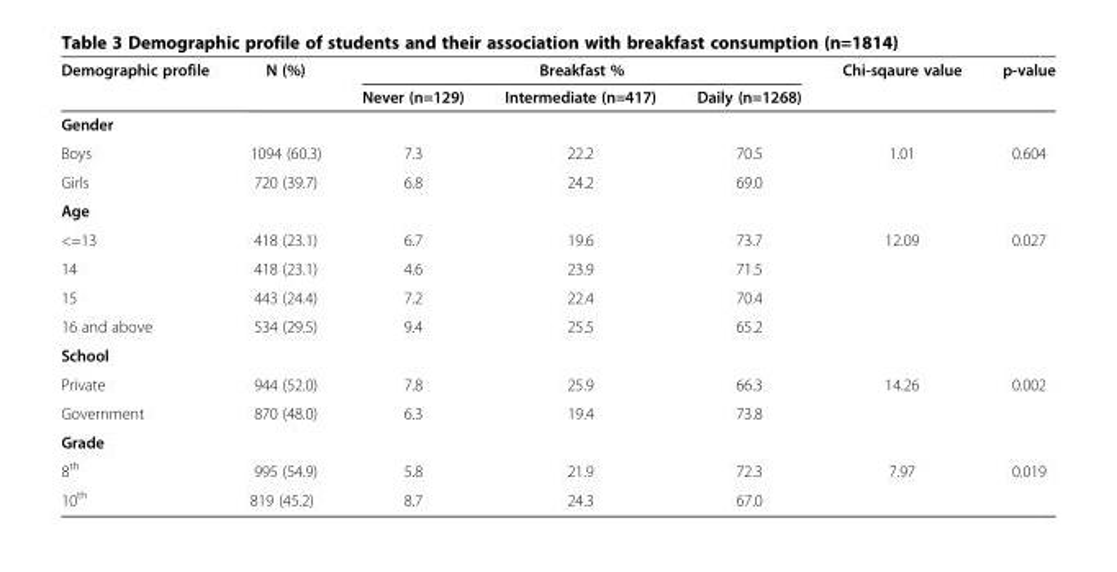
<table><thead><tr><td rowspan="2">Demographic profile</td><td rowspan="2">N (%)</td><td colspan="3">Breakfast %</td><td rowspan="2">Chi-sqaure value</td><td rowspan="2">p-value</td></tr><tr><td>Never (n=129)</td><td>Intermediate (n=417)</td><td>Daily (n=1268)</td></tr></thead><tbody><tr><td colspan="7">Gender</td></tr><tr><td>Boys</td><td>1094 (60.3)</td><td>7.3</td><td>22.2</td><td>70.5</td><td>1.01</td><td>0.604</td></tr><tr><td>Girls</td><td>720 (39.7)</td><td>6.8</td><td>24.2</td><td>69.0</td><td></td><td></td></tr><tr><td colspan="7">Age</td></tr><tr><td>&lt;=13</td><td>418 (23.1)</td><td>6.7</td><td>19.6</td><td>73.7</td><td>12.09</td><td>0.027</td></tr><tr><td>14</td><td>418 (23.1)</td><td>4.6</td><td>23.9</td><td>71.5</td><td></td><td></td></tr><tr><td>15</td><td>443 (24.4)</td><td>7.2</td><td>22.4</td><td>70.4</td><td></td><td></td></tr><tr><td>16 and above</td><td>534 (29.5)</td><td>9.4</td><td>25.5</td><td>65.2</td><td></td><td></td></tr><tr><td colspan="7">School</td></tr><tr><td>Private</td><td>944 (52.0)</td><td>7.8</td><td>25.9</td><td>66.3</td><td>14.26</td><td>0.002</td></tr><tr><td>Government</td><td>870 (48.0)</td><td>6.3</td><td>19.4</td><td>73.8</td><td></td><td></td></tr><tr><td colspan="7">Grade</td></tr><tr><td>8<sup>th</sup></td><td>995 (54.9)</td><td>5.8</td><td>21.9</td><td>72.3</td><td>7.97</td><td>0.019</td></tr><tr><td>10<sup>th</sup></td><td>819 (45.2)</td><td>8.7</td><td>24.3</td><td>67.0</td><td></td><td></td></tr></tbody></table>